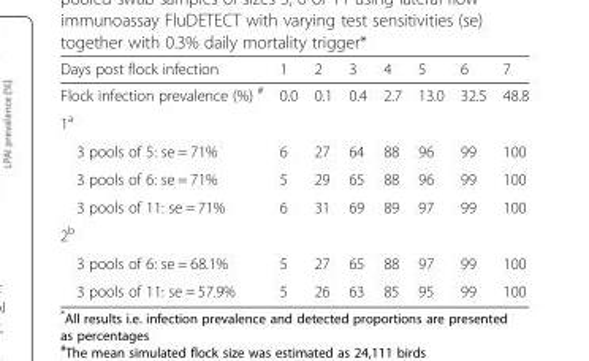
<table><thead><tr><td>Days post flock infection</td><td>1</td><td>2</td><td>3</td><td>4</td><td>5</td><td>6</td><td>7</td></tr></thead><tbody><tr><td>Flock infection prevalence (%) <sup>#</sup></td><td>0.0</td><td>0.1</td><td>0.4</td><td>2.7</td><td>13.0</td><td>32.5</td><td>48.8</td></tr><tr><td colspan="8">1<sup>a</sup></td></tr><tr><td>3 pools of 5: se = 71%</td><td>6</td><td>27</td><td>64</td><td>88</td><td>96</td><td>99</td><td>100</td></tr><tr><td>3 pools of 6: se = 71%</td><td>5</td><td>29</td><td>65</td><td>88</td><td>96</td><td>99</td><td>100</td></tr><tr><td>3 pools of 11: se = 71%</td><td>6</td><td>31</td><td>69</td><td>89</td><td>97</td><td>99</td><td>100</td></tr><tr><td colspan="8">2<sup>b</sup></td></tr><tr><td>3 pools of 6: se = 68.1%</td><td>5</td><td>27</td><td>65</td><td>88</td><td>97</td><td>99</td><td>100</td></tr><tr><td>3 pools of 11: se = 57.9%</td><td>5</td><td>26</td><td>63</td><td>85</td><td>95</td><td>99</td><td>100</td></tr></tbody></table>